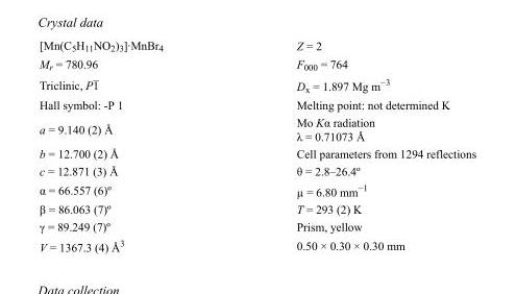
<table><tbody><tr><td>[Mn(C<sub>5</sub>H<sub>11</sub>NO<sub>2</sub>)<sub>3</sub>]·MnBr<sub>4</sub></td><td>Z = 2</td></tr><tr><td>M<sub>r</sub> = 780.96</td><td>F000 = 764</td></tr><tr><td>Triclinic, P1</td><td>D<sub>x</sub> = 1.897 Mg m<sup>−3</sup></td></tr><tr><td>Hall symbol: -P 1</td><td>Melting point: not determined K</td></tr><tr><td>a = 9.140 (2) Å</td><td>Mo Kα radiation λ = 0.71073 Å</td></tr><tr><td>b = 12.700 (2) Å</td><td>Cell parameters from 1294 reflections</td></tr><tr><td>c = 12.871 (3) Å</td><td>θ = 2.8–26.4º</td></tr><tr><td>α = 66.557 (6)º</td><td>µ = 6.80 mm<sup>−1</sup></td></tr><tr><td>β = 86.063 (7)º</td><td>T = 293 (2) K</td></tr><tr><td>γ = 89.249 (7)º</td><td>Prism, yellow</td></tr><tr><td>V = 1367.3 (4) Å<sup>3</sup></td><td>0.50 × 0.30 × 0.30 mm</td></tr></tbody></table>